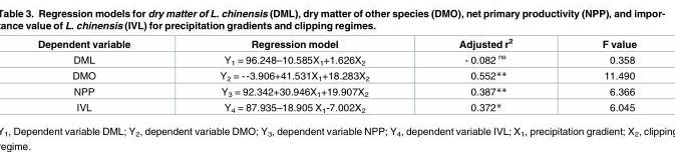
<table><thead><tr><td>Dependent variable</td><td>Regression model</td><td>Adjusted r<sup>2</sup></td><td>F value</td></tr></thead><tbody><tr><td>DML</td><td>Y<sub>1</sub> = 96.248–10.585X<sub>1</sub>+1.626X<sub>2</sub></td><td>- 0.082 <sup>ns</sup></td><td>0.358</td></tr><tr><td>DMO</td><td>Y<sub>2</sub> = --3.906+41.531X<sub>1</sub>+18.283X<sub>2</sub></td><td>0.552**</td><td>11.490</td></tr><tr><td>NPP</td><td>Y<sub>3</sub> = 92.342+30.946X<sub>1</sub>+19.907X<sub>2</sub></td><td>0.387**</td><td>6.366</td></tr><tr><td>IVL</td><td>Y<sub>4</sub> = 87.935–18.905 X<sub>1</sub>-7.002X<sub>2</sub></td><td>0.372*</td><td>6.045</td></tr></tbody></table>